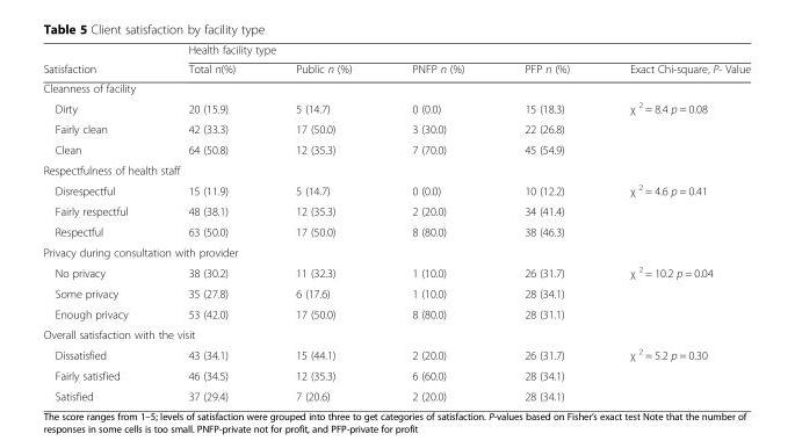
<table><thead><tr><td rowspan="2">Satisfaction</td><td colspan="5">Health facility type</td></tr><tr><td>Total n(%)</td><td>Public n (%)</td><td>PNFP n (%)</td><td>PFP n (%)</td><td>Exact Chi-square, P- Value</td></tr></thead><tbody><tr><td colspan="6">Cleanness of facility</td></tr><tr><td>Dirty</td><td>20 (15.9)</td><td>5 (14.7)</td><td>0 (0.0)</td><td>15 (18.3)</td><td rowspan="3">χ <sup>2</sup> = 8.4 p = 0.08</td></tr><tr><td>Fairly clean</td><td>42 (33.3)</td><td>17 (50.0)</td><td>3 (30.0)</td><td>22 (26.8)</td></tr><tr><td>Clean</td><td>64 (50.8)</td><td>12 (35.3)</td><td>7 (70.0)</td><td>45 (54.9)</td></tr><tr><td colspan="6">Respectfulness of health staff</td></tr><tr><td>Disrespectful</td><td>15 (11.9)</td><td>5 (14.7)</td><td>0 (0.0)</td><td>10 (12.2)</td><td rowspan="3">χ <sup>2</sup> = 4.6 p = 0.41</td></tr><tr><td>Fairly respectful</td><td>48 (38.1)</td><td>12 (35.3)</td><td>2 (20.0)</td><td>34 (41.4)</td></tr><tr><td>Respectful</td><td>63 (50.0)</td><td>17 (50.0)</td><td>8 (80.0)</td><td>38 (46.3)</td></tr><tr><td colspan="6">Privacy during consultation with provider</td></tr><tr><td>No privacy</td><td>38 (30.2)</td><td>11 (32.3)</td><td>1 (10.0)</td><td>26 (31.7)</td><td rowspan="3">χ <sup>2</sup> = 10.2 p = 0.04</td></tr><tr><td>Some privacy</td><td>35 (27.8)</td><td>6 (17.6)</td><td>1 (10.0)</td><td>28 (34.1)</td></tr><tr><td>Enough privacy</td><td>53 (42.0)</td><td>17 (50.0)</td><td>8 (80.0)</td><td>28 (31.1)</td></tr><tr><td colspan="6">Overall satisfaction with the visit</td></tr><tr><td>Dissatisfied</td><td>43 (34.1)</td><td>15 (44.1)</td><td>2 (20.0)</td><td>26 (31.7)</td><td rowspan="3">χ <sup>2</sup> = 5.2 p = 0.30</td></tr><tr><td>Fairly satisfied</td><td>46 (34.5)</td><td>12 (35.3)</td><td>6 (60.0)</td><td>28 (34.1)</td></tr><tr><td>Satisfied</td><td>37 (29.4)</td><td>7 (20.6)</td><td>2 (20.0)</td><td>28 (34.1)</td></tr></tbody></table>